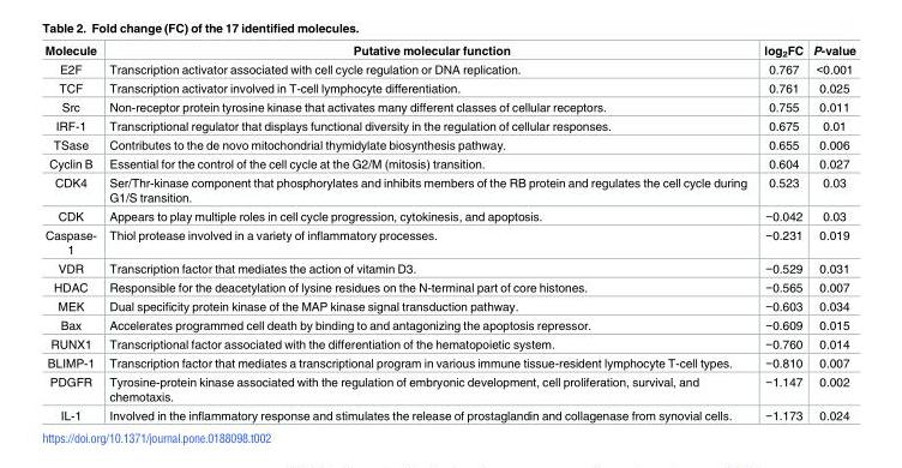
<table><thead><tr><td>Molecule</td><td>Putative molecular function</td><td>log<sub>2</sub>FC</td><td>P-value</td></tr></thead><tbody><tr><td>E2F</td><td>Transcription activator associated with cell cycle regulation or DNA replication.</td><td>0.767</td><td>&lt;0.001</td></tr><tr><td>TCF</td><td>Transcription activator involved in T-cell lymphocyte differentiation.</td><td>0.761</td><td>0.025</td></tr><tr><td>Src</td><td>Non-receptor protein tyrosine kinase that activates many different classes of cellular receptors.</td><td>0.755</td><td>0.011</td></tr><tr><td>IRF-1</td><td>Transcriptional regulator that displays functional diversity in the regulation of cellular responses.</td><td>0.675</td><td>0.01</td></tr><tr><td>TSase</td><td>Contributes to the de novo mitochondrial thymidylate biosynthesis pathway.</td><td>0.655</td><td>0.006</td></tr><tr><td>Cyclin B</td><td>Essential for the control of the cell cycle at the G2/M (mitosis) transition.</td><td>0.604</td><td>0.027</td></tr><tr><td>CDK4</td><td>Ser/Thr-kinase component that phosphorylates and inhibits members of the RB protein and regulates the cell cycle during G1/S transition.</td><td>0.523</td><td>0.03</td></tr><tr><td>CDK</td><td>Appears to play multiple roles in cell cycle progression, cytokinesis, and apoptosis.</td><td>−0.042</td><td>0.03</td></tr><tr><td>Caspase- 1</td><td>Thiol protease involved in a variety of inflammatory processes.</td><td>−0.231</td><td>0.019</td></tr><tr><td>VDR</td><td>Transcription factor that mediates the action of vitamin D3.</td><td>−0.529</td><td>0.031</td></tr><tr><td>HDAC</td><td>Responsible for the deacetylation of lysine residues on the N-terminal part of core histones.</td><td>−0.565</td><td>0.007</td></tr><tr><td>MEK</td><td>Dual specificity protein kinase of the MAP kinase signal transduction pathway.</td><td>−0.603</td><td>0.034</td></tr><tr><td>Bax</td><td>Accelerates programmed cell death by binding to and antagonizing the apoptosis repressor.</td><td>−0.609</td><td>0.015</td></tr><tr><td>RUNX1</td><td>Transcriptional factor associated with the differentiation of the hematopoietic system.</td><td>−0.760</td><td>0.014</td></tr><tr><td>BLIMP-1</td><td>Transcription factor that mediates a transcriptional program in various immune tissue-resident lymphocyte T-cell types.</td><td>−0.810</td><td>0.007</td></tr><tr><td>PDGFR</td><td>Tyrosine-protein kinase associated with the regulation of embryonic development, cell proliferation, survival, and chemotaxis.</td><td>−1.147</td><td>0.002</td></tr><tr><td>IL-1</td><td>Involved in the inflammatory response and stimulates the release of prostaglandin and collagenase from synovial cells.</td><td>−1.173</td><td>0.024</td></tr></tbody></table>